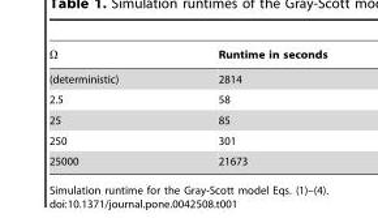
<table><thead><tr><td>V</td><td>Runtime in seconds</td></tr></thead><tbody><tr><td>(deterministic)</td><td>2814</td></tr><tr><td>2.5</td><td>58</td></tr><tr><td>25</td><td>85</td></tr><tr><td>250</td><td>301</td></tr><tr><td>25000</td><td>21673</td></tr></tbody></table>